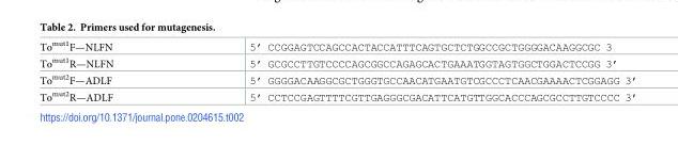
<table><tbody><tr><td>To<sup>mut1</sup>F—NLFN</td><td>5’ CCGGAGTCCAGCCACTACCATTTCAGTGCTCTGGCCGCTGGGGACAAGGCGC 3</td></tr><tr><td>To<sup>mut1</sup>R—NLFN</td><td>5’ GCGCCTTGTCCCCAGCGGCCAGAGCACTGAAATGGTAGTGGCTGGACTCCGG 3’</td></tr><tr><td>To<sup>mut2</sup>F—ADLF</td><td>5’ GGGGACAAGGCGCTGGGTGCCAACATGAATGTCGCCCTCAACGAAAACTCGGAGG 3’</td></tr><tr><td>To<sup>mut2</sup>R—ADLF</td><td>5’ CCTCCGAGTTTTCGTTGAGGGCGACATTCATGTTGGCACCCAGCGCCTTGTCCCC 3’</td></tr></tbody></table>